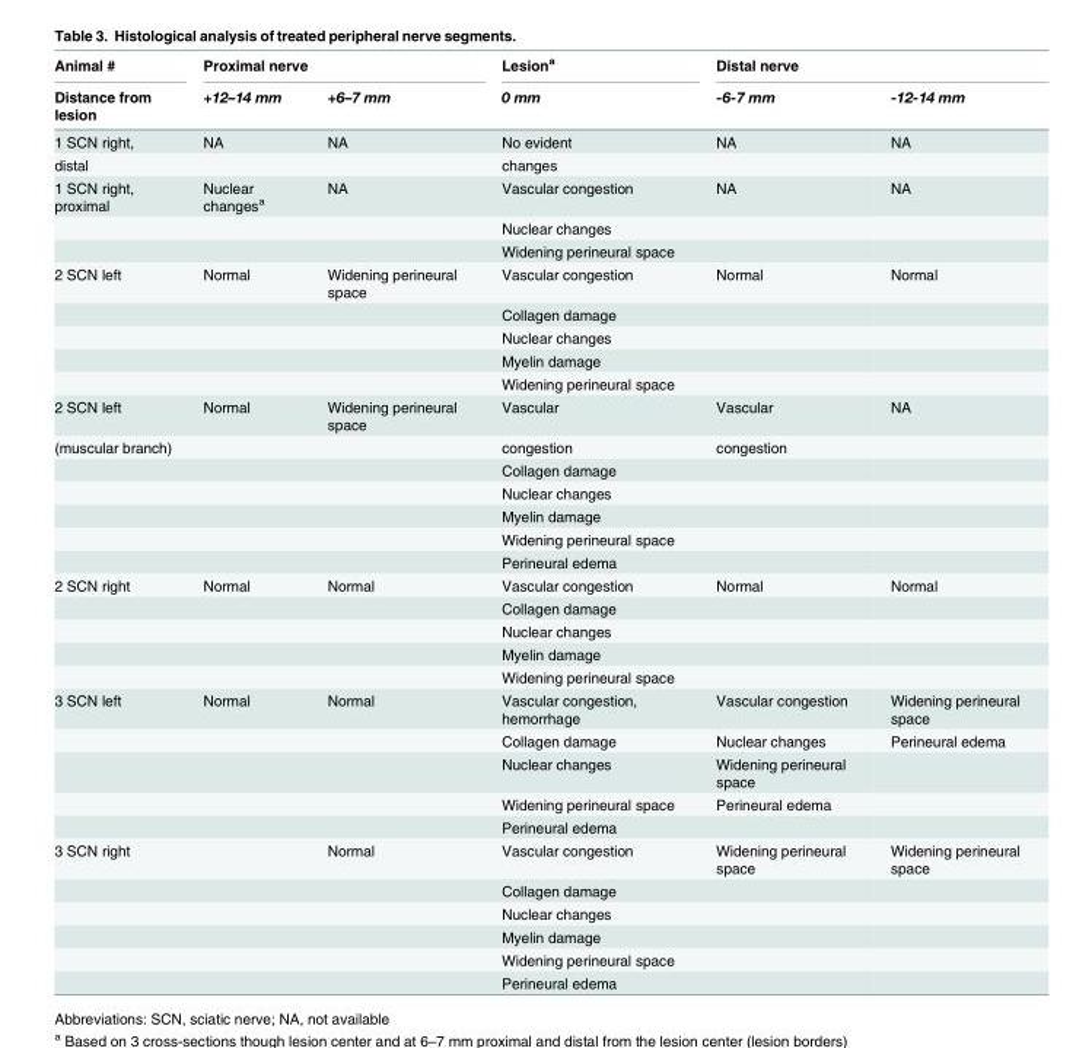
<table><thead><tr><td rowspan="2">Animal # Distance from lesion</td><td colspan="2">Proximal nerve</td><td rowspan="2">Lesion<sup>a</sup> 0 mm</td><td colspan="2">Distal nerve</td></tr><tr><td>+12–14 mm</td><td>+6–7 mm</td><td>-6-7 mm</td><td>-12-14 mm</td></tr></thead><tbody><tr><td>1 SCN right,</td><td>NA</td><td>NA</td><td>No evident</td><td>NA</td><td>NA</td></tr><tr><td>distal</td><td></td><td></td><td>changes</td><td></td><td></td></tr><tr><td rowspan="3">1 SCN right, proximal</td><td>Nuclear changes<sup>a</sup></td><td>NA</td><td>Vascular congestion</td><td>NA</td><td>NA</td></tr><tr><td></td><td></td><td>Nuclear changes</td><td></td><td></td></tr><tr><td></td><td></td><td>Widening perineural space</td><td></td><td></td></tr><tr><td rowspan="5">2 SCN left</td><td>Normal</td><td>Widening perineural space</td><td>Vascular congestion</td><td>Normal</td><td>Normal</td></tr><tr><td></td><td></td><td>Collagen damage</td><td></td><td></td></tr><tr><td></td><td></td><td>Nuclear changes</td><td></td><td></td></tr><tr><td></td><td></td><td>Myelin damage</td><td></td><td></td></tr><tr><td></td><td></td><td>Widening perineural space</td><td></td><td></td></tr><tr><td>2 SCN left</td><td>Normal</td><td>Widening perineural space</td><td>Vascular</td><td>Vascular</td><td>NA</td></tr><tr><td rowspan="6">(muscular branch)</td><td></td><td></td><td>congestion</td><td>congestion</td><td></td></tr><tr><td></td><td></td><td>Collagen damage</td><td></td><td></td></tr><tr><td></td><td></td><td>Nuclear changes</td><td></td><td></td></tr><tr><td></td><td></td><td>Myelin damage</td><td></td><td></td></tr><tr><td></td><td></td><td>Widening perineural space</td><td></td><td></td></tr><tr><td></td><td></td><td>Perineural edema</td><td></td><td></td></tr><tr><td rowspan="5">2 SCN right</td><td>Normal</td><td>Normal</td><td>Vascular congestion</td><td>Normal</td><td>Normal</td></tr><tr><td></td><td></td><td>Collagen damage</td><td></td><td></td></tr><tr><td></td><td></td><td>Nuclear changes</td><td></td><td></td></tr><tr><td></td><td></td><td>Myelin damage</td><td></td><td></td></tr><tr><td></td><td></td><td>Widening perineural space</td><td></td><td></td></tr><tr><td rowspan="5">3 SCN left</td><td>Normal</td><td>Normal</td><td>Vascular congestion, hemorrhage</td><td>Vascular congestion</td><td>Widening perineural space</td></tr><tr><td></td><td></td><td>Collagen damage</td><td>Nuclear changes</td><td>Perineural edema</td></tr><tr><td></td><td></td><td>Nuclear changes</td><td>Widening perineural space</td><td></td></tr><tr><td></td><td></td><td>Widening perineural space</td><td>Perineural edema</td><td></td></tr><tr><td></td><td></td><td>Perineural edema</td><td></td><td></td></tr><tr><td rowspan="6">3 SCN right</td><td></td><td>Normal</td><td>Vascular congestion</td><td>Widening perineural space</td><td>Widening perineural space</td></tr><tr><td></td><td></td><td>Collagen damage</td><td></td><td></td></tr><tr><td></td><td></td><td>Nuclear changes</td><td></td><td></td></tr><tr><td></td><td></td><td>Myelin damage</td><td></td><td></td></tr><tr><td></td><td></td><td>Widening perineural space</td><td></td><td></td></tr><tr><td></td><td></td><td>Perineural edema</td><td></td><td></td></tr></tbody></table>